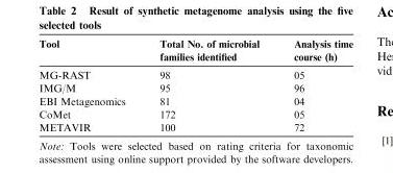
<table><thead><tr><td>Tool</td><td>Total No. of microbial families identified</td><td>Analysis time course (h)</td></tr></thead><tbody><tr><td>MG-RAST</td><td>98</td><td>05</td></tr><tr><td>IMG/M</td><td>95</td><td>96</td></tr><tr><td>EBI Metagenomics</td><td>81</td><td>04</td></tr><tr><td>CoMet</td><td>172</td><td>05</td></tr><tr><td>METAVIR</td><td>100</td><td>72</td></tr></tbody></table>